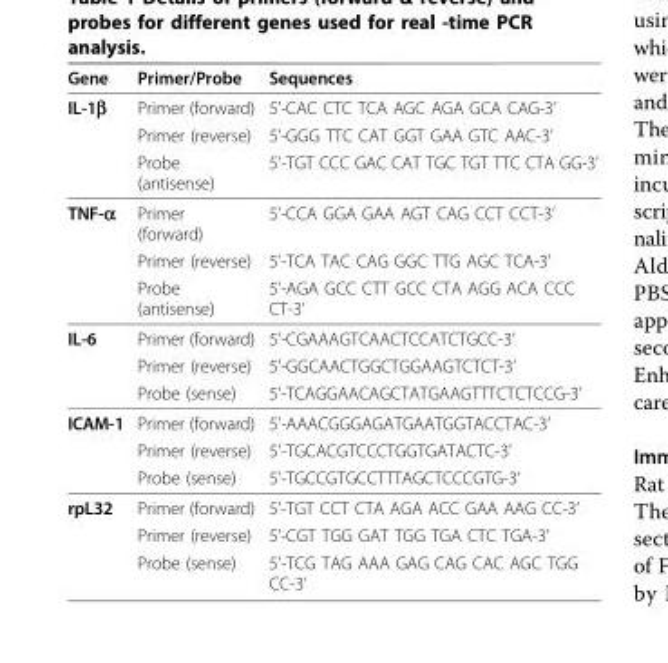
<table><thead><tr><td>Gene</td><td>Primer/Probe</td><td>Sequences</td></tr></thead><tbody><tr><td rowspan="3">IL-1β</td><td>Primer (forward)</td><td>5’-CAC CTC TCA AGC AGA GCA CAG-3’</td></tr><tr><td>Primer (reverse)</td><td>5’-GGG TTC CAT GGT GAA GTC AAC-3’</td></tr><tr><td>Probe (antisense)</td><td>5’-TGT CCC GAC CAT TGC TGT TTC CTA GG-3’</td></tr><tr><td rowspan="3">TNF-α</td><td>Primer (forward)</td><td>5’-CCA GGA GAA AGT CAG CCT CCT-3’</td></tr><tr><td>Primer (reverse)</td><td>5’-TCA TAC CAG GGC TTG AGC TCA-3’</td></tr><tr><td>Probe (antisense)</td><td>5’-AGA GCC CTT GCC CTA AGG ACA CCC CT-3’</td></tr><tr><td rowspan="3">IL-6</td><td>Primer (forward)</td><td>5’-CGAAAGTCAACTCCATCTGCC-3’</td></tr><tr><td>Primer (reverse)</td><td>5’-GGCAACTGGCTGGAAGTCTCT-3’</td></tr><tr><td>Probe (sense)</td><td>5’-TCAGGAACAGCTATGAAGTTTCTCTCCG-3’</td></tr><tr><td rowspan="3">ICAM-1</td><td>Primer (forward)</td><td>5’-AAACGGGAGATGAATGGTACCTAC-3’</td></tr><tr><td>Primer (reverse)</td><td>5’-TGCACGTCCCTGGTGATACTC-3’</td></tr><tr><td>Probe (sense)</td><td>5’-TGCCGTGCCTTTAGCTCCCGTG-3’</td></tr><tr><td rowspan="3">rpL32</td><td>Primer (forward)</td><td>5’-TGT CCT CTA AGA ACC GAA AAG CC-3’</td></tr><tr><td>Primer (reverse)</td><td>5’-CGT TGG GAT TGG TGA CTC TGA-3’</td></tr><tr><td>Probe (sense)</td><td>5’-TCG TAG AAA GAG CAG CAC AGC TGG CC-3’</td></tr></tbody></table>